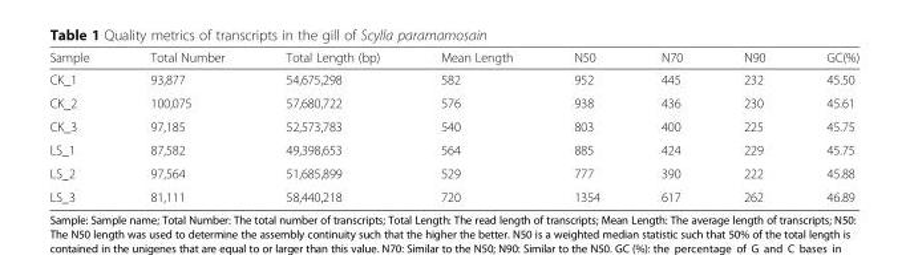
<table><thead><tr><td>Sample</td><td>Total Number</td><td>Total Length (bp)</td><td>Mean Length</td><td>N50</td><td>N70</td><td>N90</td><td>GC(%)</td></tr></thead><tbody><tr><td>CK_1</td><td>93,877</td><td>54,675,298</td><td>582</td><td>952</td><td>445</td><td>232</td><td>45.50</td></tr><tr><td>CK_2</td><td>100,075</td><td>57,680,722</td><td>576</td><td>938</td><td>436</td><td>230</td><td>45.61</td></tr><tr><td>CK_3</td><td>97,185</td><td>52,573,783</td><td>540</td><td>803</td><td>400</td><td>225</td><td>45.75</td></tr><tr><td>LS_1</td><td>87,582</td><td>49,398,653</td><td>564</td><td>885</td><td>424</td><td>229</td><td>45.75</td></tr><tr><td>LS_2</td><td>97,564</td><td>51,685,899</td><td>529</td><td>777</td><td>390</td><td>222</td><td>45.88</td></tr><tr><td>LS_3</td><td>81,111</td><td>58,440,218</td><td>720</td><td>1354</td><td>617</td><td>262</td><td>46.89</td></tr></tbody></table>